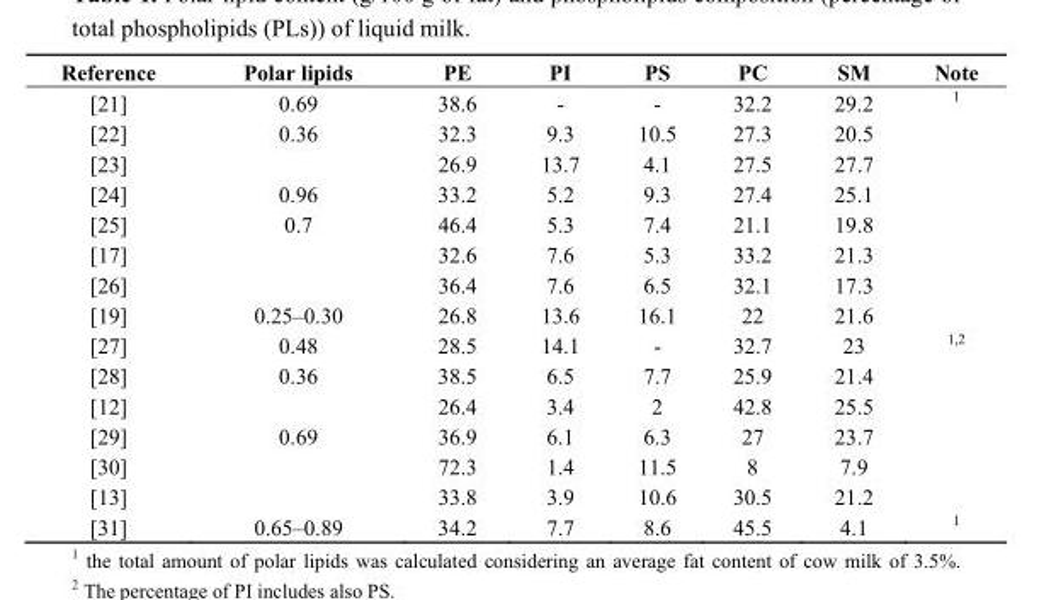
<table><thead><tr><td>Reference</td><td>Polar lipids</td><td>PE</td><td>PI</td><td>PS</td><td>PC</td><td>SM</td><td>Note</td></tr></thead><tbody><tr><td>[21]</td><td>0.69</td><td>38.6</td><td>-</td><td>-</td><td>32.2</td><td>29.2</td><td>1</td></tr><tr><td>[22]</td><td>0.36</td><td>32.3</td><td>9.3</td><td>10.5</td><td>27.3</td><td>20.5</td><td></td></tr><tr><td>[23]</td><td></td><td>26.9</td><td>13.7</td><td>4.1</td><td>27.5</td><td>27.7</td><td></td></tr><tr><td>[24]</td><td>0.96</td><td>33.2</td><td>5.2</td><td>9.3</td><td>27.4</td><td>25.1</td><td></td></tr><tr><td>[25]</td><td>0.7</td><td>46.4</td><td>5.3</td><td>7.4</td><td>21.1</td><td>19.8</td><td></td></tr><tr><td>[17]</td><td></td><td>32.6</td><td>7.6</td><td>5.3</td><td>33.2</td><td>21.3</td><td></td></tr><tr><td>[26]</td><td></td><td>36.4</td><td>7.6</td><td>6.5</td><td>32.1</td><td>17.3</td><td></td></tr><tr><td>[19]</td><td>0.25–0.30</td><td>26.8</td><td>13.6</td><td>16.1</td><td>22</td><td>21.6</td><td></td></tr><tr><td>[27]</td><td>0.48</td><td>28.5</td><td>14.1</td><td>-</td><td>32.7</td><td>23</td><td>1,2</td></tr><tr><td>[28]</td><td>0.36</td><td>38.5</td><td>6.5</td><td>7.7</td><td>25.9</td><td>21.4</td><td></td></tr><tr><td>[12]</td><td></td><td>26.4</td><td>3.4</td><td>2</td><td>42.8</td><td>25.5</td><td></td></tr><tr><td>[29]</td><td>0.69</td><td>36.9</td><td>6.1</td><td>6.3</td><td>27</td><td>23.7</td><td></td></tr><tr><td>[30]</td><td></td><td>72.3</td><td>1.4</td><td>11.5</td><td>8</td><td>7.9</td><td></td></tr><tr><td>[13]</td><td></td><td>33.8</td><td>3.9</td><td>10.6</td><td>30.5</td><td>21.2</td><td></td></tr><tr><td>[31]</td><td>0.65–0.89</td><td>34.2</td><td>7.7</td><td>8.6</td><td>45.5</td><td>4.1</td><td>1</td></tr></tbody></table>